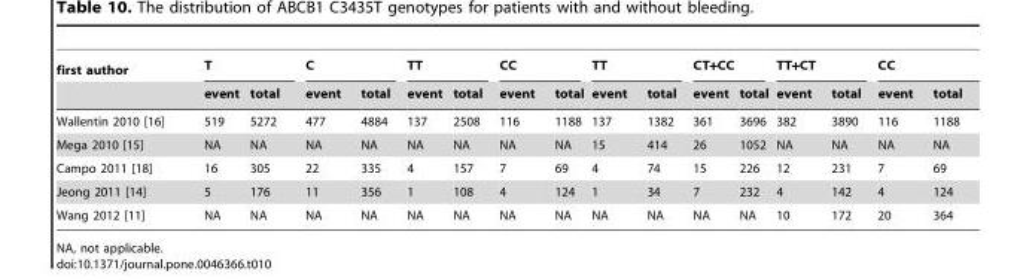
<table><thead><tr><td rowspan="2">first author</td><td colspan="2">T</td><td colspan="2">C</td><td colspan="2">TT</td><td colspan="2">CC</td><td colspan="2">TT</td><td colspan="2">CT+CC</td><td colspan="2">TT+CT</td><td colspan="2">CC</td></tr><tr><td>event</td><td>total</td><td>event</td><td>total</td><td>event</td><td>total</td><td>event</td><td>total</td><td>event</td><td>total</td><td>event</td><td>total</td><td>event</td><td>total</td><td>event</td><td>total</td></tr></thead><tbody><tr><td>Wallentin 2010 [16]</td><td>519</td><td>5272</td><td>477</td><td>4884</td><td>137</td><td>2508</td><td>116</td><td>1188</td><td>137</td><td>1382</td><td>361</td><td>3696</td><td>382</td><td>3890</td><td>116</td><td>1188</td></tr><tr><td>Mega 2010 [15]</td><td>NA</td><td>NA</td><td>NA</td><td>NA</td><td>NA</td><td>NA</td><td>NA</td><td>NA</td><td>15</td><td>414</td><td>26</td><td>1052</td><td>NA</td><td>NA</td><td>NA</td><td>NA</td></tr><tr><td>Campo 2011 [18]</td><td>16</td><td>305</td><td>22</td><td>335</td><td>4</td><td>157</td><td>7</td><td>69</td><td>4</td><td>74</td><td>15</td><td>226</td><td>12</td><td>231</td><td>7</td><td>69</td></tr><tr><td>Jeong 2011 [14]</td><td>5</td><td>176</td><td>11</td><td>356</td><td>1</td><td>108</td><td>4</td><td>124</td><td>1</td><td>34</td><td>7</td><td>232</td><td>4</td><td>142</td><td>4</td><td>124</td></tr><tr><td>Wang 2012 [11]</td><td>NA</td><td>NA</td><td>NA</td><td>NA</td><td>NA</td><td>NA</td><td>NA</td><td>NA</td><td>NA</td><td>NA</td><td>NA</td><td>NA</td><td>10</td><td>172</td><td>20</td><td>364</td></tr></tbody></table>